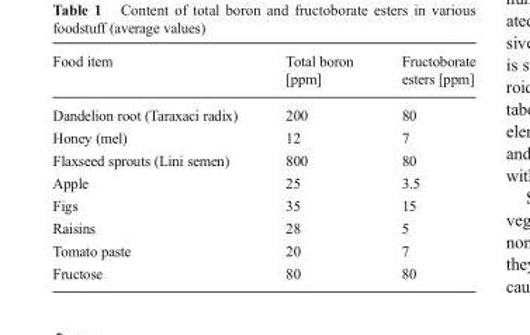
<table><thead><tr><td>Food item</td><td>Total boron [ppm]</td><td>Fructoborate esters [ppm]</td></tr></thead><tbody><tr><td>Dandelion root (Taraxaci radix)</td><td>200</td><td>80</td></tr><tr><td>Honey (mel)</td><td>12</td><td>7</td></tr><tr><td>Flaxseed sprouts (Lini semen)</td><td>800</td><td>80</td></tr><tr><td>Apple</td><td>25</td><td>3.5</td></tr><tr><td>Figs</td><td>35</td><td>15</td></tr><tr><td>Raisins</td><td>28</td><td>5</td></tr><tr><td>Tomato paste</td><td>20</td><td>7</td></tr><tr><td>Fructose</td><td>80</td><td>80</td></tr></tbody></table>